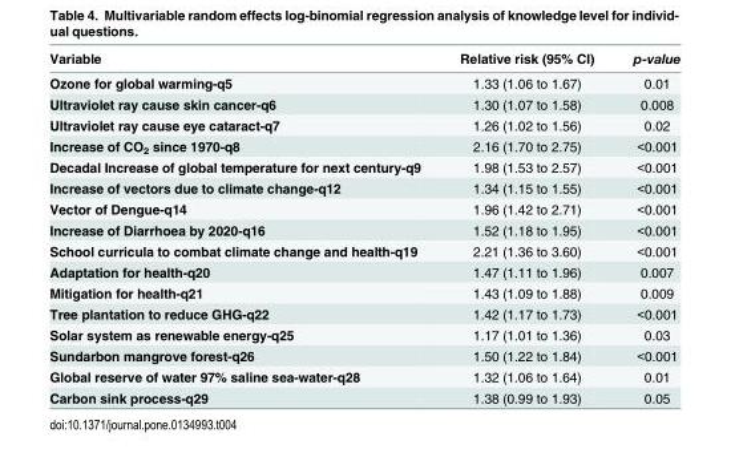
<table><thead><tr><td>Variable</td><td>Relative risk (95% CI)</td><td>p-value</td></tr></thead><tbody><tr><td>Ozone for global warming-q5</td><td>1.33 (1.06 to 1.67)</td><td>0.01</td></tr><tr><td>Ultraviolet ray cause skin cancer-q6</td><td>1.30 (1.07 to 1.58)</td><td>0.008</td></tr><tr><td>Ultraviolet ray cause eye cataract-q7</td><td>1.26 (1.02 to 1.56)</td><td>0.02</td></tr><tr><td>Increase of CO<sub>2</sub> since 1970-q8</td><td>2.16 (1.70 to 2.75)</td><td>&lt;0.001</td></tr><tr><td>Decadal Increase of global temperature for next century-q9</td><td>1.98 (1.53 to 2.57)</td><td>&lt;0.001</td></tr><tr><td>Increase of vectors due to climate change-q12</td><td>1.34 (1.15 to 1.55)</td><td>&lt;0.001</td></tr><tr><td>Vector of Dengue-q14</td><td>1.96 (1.42 to 2.71)</td><td>&lt;0.001</td></tr><tr><td>Increase of Diarrhoea by 2020-q16</td><td>1.52 (1.18 to 1.95)</td><td>&lt;0.001</td></tr><tr><td>School curricula to combat climate change and health-q19</td><td>2.21 (1.36 to 3.60)</td><td>&lt;0.001</td></tr><tr><td>Adaptation for health-q20</td><td>1.47 (1.11 to 1.96)</td><td>0.007</td></tr><tr><td>Mitigation for health-q21</td><td>1.43 (1.09 to 1.88)</td><td>0.009</td></tr><tr><td>Tree plantation to reduce GHG-q22</td><td>1.42 (1.17 to 1.73)</td><td>&lt;0.001</td></tr><tr><td>Solar system as renewable energy-q25</td><td>1.17 (1.01 to 1.36)</td><td>0.03</td></tr><tr><td>Sundarbon mangrove forest-q26</td><td>1.50 (1.22 to 1.84)</td><td>&lt;0.001</td></tr><tr><td>Global reserve of water 97% saline sea-water-q28</td><td>1.32 (1.06 to 1.64)</td><td>0.01</td></tr><tr><td>Carbon sink process-q29</td><td>1.38 (0.99 to 1.93)</td><td>0.05</td></tr></tbody></table>